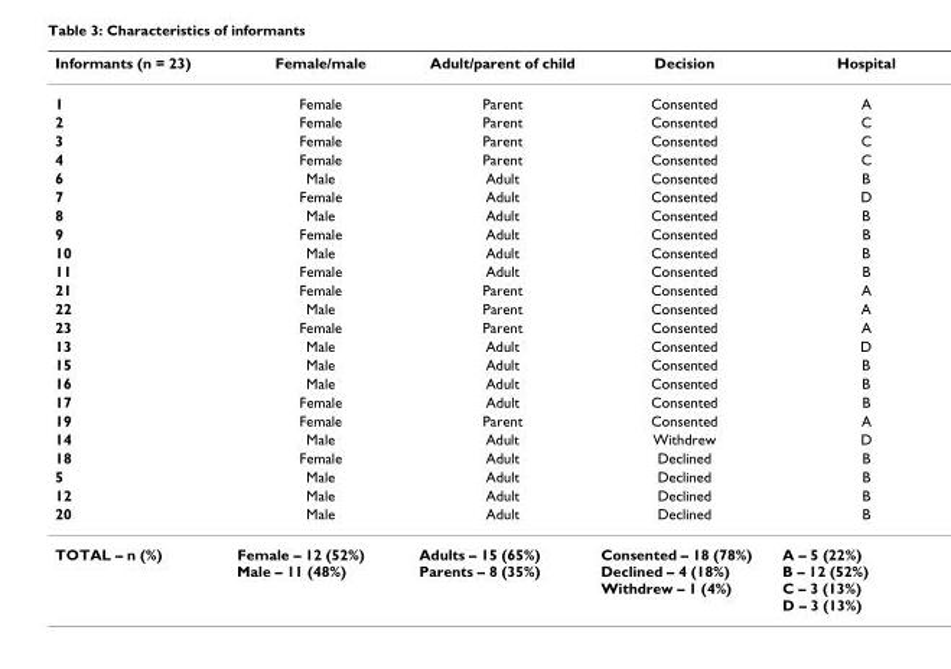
<table><thead><tr><td>Informants (n = 23)</td><td>Female/male</td><td>Adult/parent of child</td><td>Decision</td><td>Hospital</td></tr></thead><tbody><tr><td>1</td><td>Female</td><td>Parent</td><td>Consented</td><td>A</td></tr><tr><td>2</td><td>Female</td><td>Parent</td><td>Consented</td><td>C</td></tr><tr><td>3</td><td>Female</td><td>Parent</td><td>Consented</td><td>C</td></tr><tr><td>4</td><td>Female</td><td>Parent</td><td>Consented</td><td>C</td></tr><tr><td>6</td><td>Male</td><td>Adult</td><td>Consented</td><td>B</td></tr><tr><td>7</td><td>Female</td><td>Adult</td><td>Consented</td><td>D</td></tr><tr><td>8</td><td>Male</td><td>Adult</td><td>Consented</td><td>B</td></tr><tr><td>9</td><td>Female</td><td>Adult</td><td>Consented</td><td>B</td></tr><tr><td>10</td><td>Male</td><td>Adult</td><td>Consented</td><td>B</td></tr><tr><td>11</td><td>Female</td><td>Adult</td><td>Consented</td><td>B</td></tr><tr><td>21</td><td>Female</td><td>Parent</td><td>Consented</td><td>A</td></tr><tr><td>22</td><td>Male</td><td>Parent</td><td>Consented</td><td>A</td></tr><tr><td>23</td><td>Female</td><td>Parent</td><td>Consented</td><td>A</td></tr><tr><td>13</td><td>Male</td><td>Adult</td><td>Consented</td><td>D</td></tr><tr><td>15</td><td>Male</td><td>Adult</td><td>Consented</td><td>B</td></tr><tr><td>16</td><td>Male</td><td>Adult</td><td>Consented</td><td>B</td></tr><tr><td>17</td><td>Female</td><td>Adult</td><td>Consented</td><td>B</td></tr><tr><td>19</td><td>Female</td><td>Parent</td><td>Consented</td><td>A</td></tr><tr><td>14</td><td>Male</td><td>Adult</td><td>Withdrew</td><td>D</td></tr><tr><td>18</td><td>Female</td><td>Adult</td><td>Declined</td><td>B</td></tr><tr><td>5</td><td>Male</td><td>Adult</td><td>Declined</td><td>B</td></tr><tr><td>12</td><td>Male</td><td>Adult</td><td>Declined</td><td>B</td></tr><tr><td>20</td><td>Male</td><td>Adult</td><td>Declined</td><td>B</td></tr><tr><td>TOTAL – n (%)</td><td>Female – 12 (52%) Male – 11 (48%)</td><td>Adults – 15 (65%) Parents – 8 (35%)</td><td>Consented – 18 (78%) Declined – 4 (18%) Withdrew – 1 (4%)</td><td>A – 5 (22%) B – 12 (52%) C – 3 (13%) D – 3 (13%)</td></tr></tbody></table>